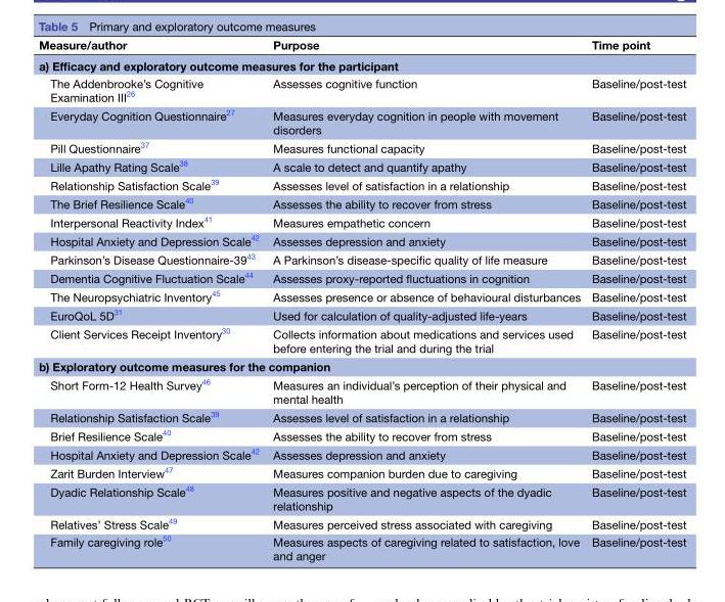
<table><thead><tr><td>Measure/author</td><td>Purpose</td><td>Time point</td></tr></thead><tbody><tr><td colspan="3">a) Efficacy and exploratory outcome measures for the participant</td></tr><tr><td>The Addenbrooke’s Cognitive Examination III<sup>26</sup></td><td>Assesses cognitive function</td><td>Baseline/post-test</td></tr><tr><td>Everyday Cognition Questionnaire<sup>27</sup></td><td>Measures everyday cognition in people with movement disorders</td><td>Baseline/post-test</td></tr><tr><td>Pill Questionnaire<sup>37</sup></td><td>Measures functional capacity</td><td>Baseline/post-test</td></tr><tr><td>Lille Apathy Rating Scale<sup>38</sup></td><td>A scale to detect and quantify apathy</td><td>Baseline/post-test</td></tr><tr><td>Relationship Satisfaction Scale<sup>39</sup></td><td>Assesses level of satisfaction in a relationship</td><td>Baseline/post-test</td></tr><tr><td>The Brief Resilience Scale<sup>40</sup></td><td>Assesses the ability to recover from stress</td><td>Baseline/post-test</td></tr><tr><td>Interpersonal Reactivity Index<sup>41</sup></td><td>Measures empathetic concern</td><td>Baseline/post-test</td></tr><tr><td>Hospital Anxiety and Depression Scale<sup>42</sup></td><td>Assesses depression and anxiety</td><td>Baseline/post-test</td></tr><tr><td>Parkinson’s Disease Questionnaire-39<sup>43</sup></td><td>A Parkinson’s disease-specific quality of life measure</td><td>Baseline/post-test</td></tr><tr><td>Dementia Cognitive Fluctuation Scale<sup>44</sup></td><td>Assesses proxy-reported fluctuations in cognition</td><td>Baseline/post-test</td></tr><tr><td>The Neuropsychiatric Inventory<sup>45</sup></td><td>Assesses presence or absence of behavioural disturbances</td><td>Baseline/post-test</td></tr><tr><td>EuroQoL 5D<sup>31</sup></td><td>Used for calculation of quality-adjusted life-years</td><td>Baseline/post-test</td></tr><tr><td>Client Services Receipt Inventory<sup>30</sup></td><td>Collects information about medications and services used before entering the trial and during the trial</td><td>Baseline/post-test</td></tr><tr><td colspan="3">b) Exploratory outcome measures for the companion</td></tr><tr><td>Short Form-12 Health Survey<sup>46</sup></td><td>Measures an individual’s perception of their physical and mental health</td><td>Baseline/post-test</td></tr><tr><td>Relationship Satisfaction Scale<sup>39</sup></td><td>Assesses level of satisfaction in a relationship</td><td>Baseline/post-test</td></tr><tr><td>Brief Resilience Scale<sup>40</sup></td><td>Assesses the ability to recover from stress</td><td>Baseline/post-test</td></tr><tr><td>Hospital Anxiety and Depression Scale<sup>42</sup></td><td>Assesses depression and anxiety</td><td>Baseline/post-test</td></tr><tr><td>Zarit Burden Interview<sup>47</sup></td><td>Measures companion burden due to caregiving</td><td>Baseline/post-test</td></tr><tr><td>Dyadic Relationship Scale<sup>48</sup></td><td>Measures positive and negative aspects of the dyadic relationship</td><td>Baseline/post-test</td></tr><tr><td>Relatives’ Stress Scale<sup>49</sup></td><td>Measures perceived stress associated with caregiving</td><td>Baseline/post-test</td></tr><tr><td>Family caregiving role<sup>50</sup></td><td>Measures aspects of caregiving related to satisfaction, love and anger</td><td>Baseline/post-test</td></tr></tbody></table>